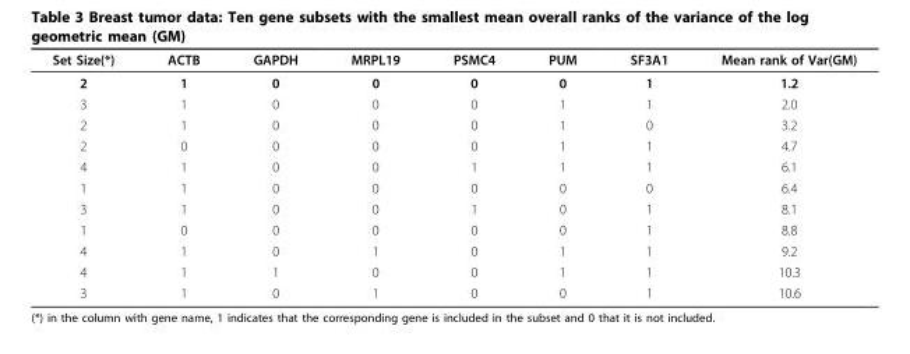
<table><thead><tr><td>Set Size(*)</td><td>ACTB</td><td>GAPDH</td><td>MRPL19</td><td>PSMC4</td><td>PUM</td><td>SF3A1</td><td>Mean rank of Var(GM)</td></tr></thead><tbody><tr><td>2</td><td>1</td><td>0</td><td>0</td><td>0</td><td>0</td><td>1</td><td>1.2</td></tr><tr><td>3</td><td>1</td><td>0</td><td>0</td><td>0</td><td>1</td><td>1</td><td>2.0</td></tr><tr><td>2</td><td>1</td><td>0</td><td>0</td><td>0</td><td>1</td><td>0</td><td>3.2</td></tr><tr><td>2</td><td>0</td><td>0</td><td>0</td><td>0</td><td>1</td><td>1</td><td>4.7</td></tr><tr><td>4</td><td>1</td><td>0</td><td>0</td><td>1</td><td>1</td><td>1</td><td>6.1</td></tr><tr><td>1</td><td>1</td><td>0</td><td>0</td><td>0</td><td>0</td><td>0</td><td>6.4</td></tr><tr><td>3</td><td>1</td><td>0</td><td>0</td><td>1</td><td>0</td><td>1</td><td>8.1</td></tr><tr><td>1</td><td>0</td><td>0</td><td>0</td><td>0</td><td>0</td><td>1</td><td>8.8</td></tr><tr><td>4</td><td>1</td><td>0</td><td>1</td><td>0</td><td>1</td><td>1</td><td>9.2</td></tr><tr><td>4</td><td>1</td><td>1</td><td>0</td><td>0</td><td>1</td><td>1</td><td>10.3</td></tr><tr><td>3</td><td>1</td><td>0</td><td>1</td><td>0</td><td>0</td><td>1</td><td>10.6</td></tr></tbody></table>